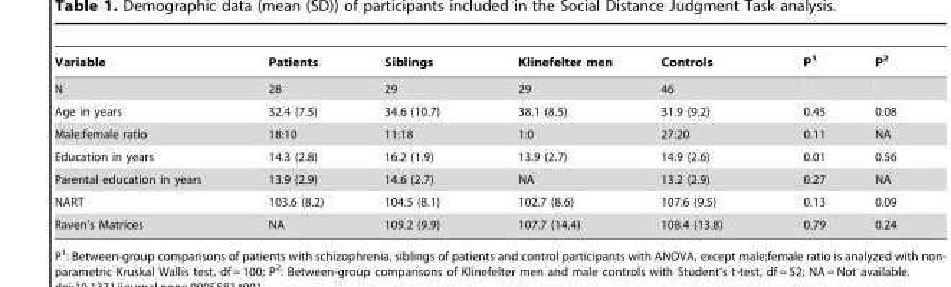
<table><thead><tr><td>Variable</td><td>Patients</td><td>Siblings</td><td>Klinefelter men</td><td>Controls</td><td>P<sup>1</sup></td><td>P<sup>2</sup></td></tr></thead><tbody><tr><td>N</td><td>28</td><td>29</td><td>29</td><td>46</td><td></td><td></td></tr><tr><td>Age in years</td><td>32.4 (7.5)</td><td>34.6 (10.7)</td><td>38.1 (8.5)</td><td>31.9 (9.2)</td><td>0.45</td><td>0.08</td></tr><tr><td>Male:female ratio</td><td>18:10</td><td>11:18</td><td>1:0</td><td>27:20</td><td>0.11</td><td>NA</td></tr><tr><td>Education in years</td><td>14.3 (2.8)</td><td>16.2 (1.9)</td><td>13.9 (2.7)</td><td>14.9 (2.6)</td><td>0.01</td><td>0.56</td></tr><tr><td>Parental education in years</td><td>13.9 (2.9)</td><td>14.6 (2.7)</td><td>NA</td><td>13.2 (2.9)</td><td>0.27</td><td>NA</td></tr><tr><td>NART</td><td>103.6 (8.2)</td><td>104.5 (8.1)</td><td>102.7 (8.6)</td><td>107.6 (9.5)</td><td>0.13</td><td>0.09</td></tr><tr><td>Raven’s Matrices</td><td>NA</td><td>109.2 (9.9)</td><td>107.7 (14.4)</td><td>108.4 (13.8)</td><td>0.79</td><td>0.24</td></tr></tbody></table>